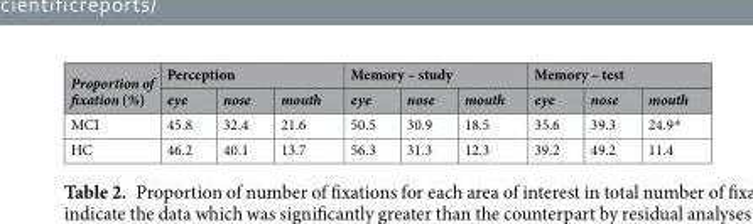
<table><thead><tr><td rowspan="2">Proportion of fixation (%)</td><td colspan="3">Perception</td><td colspan="3">Memory – study</td><td colspan="3">Memory – test</td></tr><tr><td>eye</td><td>nose</td><td>mouth</td><td>eye</td><td>nose</td><td>mouth</td><td>eye</td><td>nose</td><td>mouth</td></tr></thead><tbody><tr><td>MCI</td><td>45.8</td><td>32.4</td><td>21.6</td><td>50.5</td><td>30.9</td><td>18.5</td><td>35.6</td><td>39.3</td><td>24.9*</td></tr><tr><td>HC</td><td>46.2</td><td>40.1</td><td>13.7</td><td>56.3</td><td>31.3</td><td>12.3</td><td>39.2</td><td>49.2</td><td>11.4</td></tr></tbody></table>